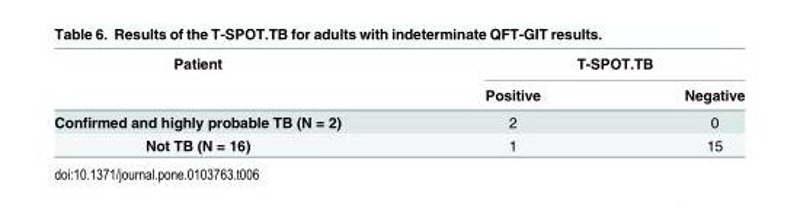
<table><thead><tr><td rowspan="2">Patient</td><td colspan="2">T-SPOT.TB</td></tr><tr><td>Positive</td><td>Negative</td></tr></thead><tbody><tr><td>Confirmed and highly probable TB (N = 2)</td><td>2</td><td>0</td></tr><tr><td>Not TB (N = 16)</td><td>1</td><td>15</td></tr></tbody></table>